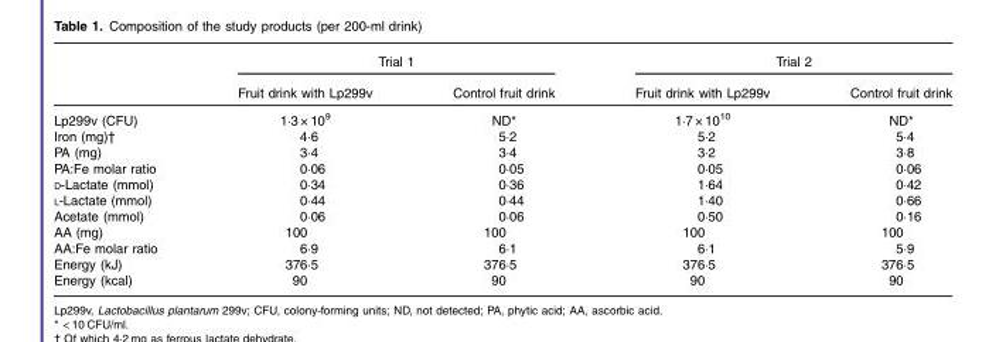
<table><thead><tr><td rowspan="2"></td><td colspan="2">Trial 1</td><td colspan="2">Trial 2</td></tr><tr><td>Fruit drink with Lp299v</td><td>Control fruit drink</td><td>Fruit drink with Lp299v</td><td>Control fruit drink</td></tr></thead><tbody><tr><td>Lp299v (CFU)</td><td>1·3 × 10<sup>9</sup></td><td>ND*</td><td>1·7 × 10<sup>10</sup></td><td>ND*</td></tr><tr><td>Iron (mg)†</td><td>4·6</td><td>5·2</td><td>5·2</td><td>5·4</td></tr><tr><td>PA (mg)</td><td>3·4</td><td>3·4</td><td>3·2</td><td>3·8</td></tr><tr><td>PA:Fe molar ratio</td><td>0·06</td><td>0·05</td><td>0·05</td><td>0·06</td></tr><tr><td>D-Lactate (mmol)</td><td>0·34</td><td>0·36</td><td>1·64</td><td>0·42</td></tr><tr><td>L-Lactate (mmol)</td><td>0·44</td><td>0·44</td><td>1·40</td><td>0·66</td></tr><tr><td>Acetate (mmol)</td><td>0·06</td><td>0·06</td><td>0·50</td><td>0·16</td></tr><tr><td>AA (mg)</td><td>100</td><td>100</td><td>100</td><td>100</td></tr><tr><td>AA:Fe molar ratio</td><td>6·9</td><td>6·1</td><td>6·1</td><td>5·9</td></tr><tr><td>Energy (kJ)</td><td>376·5</td><td>376·5</td><td>376·5</td><td>376·5</td></tr><tr><td>Energy (kcal)</td><td>90</td><td>90</td><td>90</td><td>90</td></tr></tbody></table>